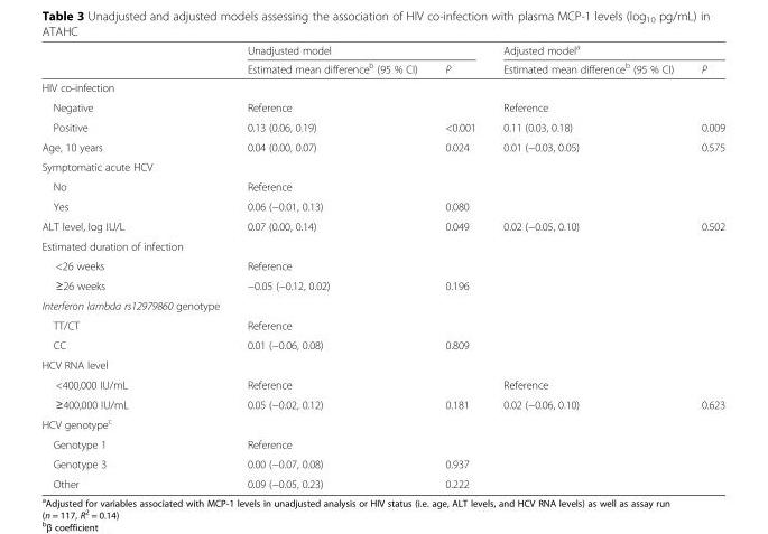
<table><thead><tr><td rowspan="2"></td><td colspan="2">Unadjusted model</td><td colspan="2">Adjusted model<sup>a</sup></td></tr><tr><td>Estimated mean difference<sup>b</sup> (95 % CI)</td><td>P</td><td>Estimated mean difference<sup>b</sup> (95 % CI)</td><td>P</td></tr></thead><tbody><tr><td colspan="5">HIV co-infection</td></tr><tr><td>Negative</td><td>Reference</td><td></td><td>Reference</td><td></td></tr><tr><td>Positive</td><td>0.13 (0.06, 0.19)</td><td>&lt;0.001</td><td>0.11 (0.03, 0.18)</td><td>0.009</td></tr><tr><td>Age, 10 years</td><td>0.04 (0.00, 0.07)</td><td>0.024</td><td>0.01 (−0.03, 0.05)</td><td>0.575</td></tr><tr><td colspan="5">Symptomatic acute HCV</td></tr><tr><td>No</td><td>Reference</td><td></td><td></td><td></td></tr><tr><td>Yes</td><td>0.06 (−0.01, 0.13)</td><td>0.080</td><td></td><td></td></tr><tr><td>ALT level, log IU/L</td><td>0.07 (0.00, 0.14)</td><td>0.049</td><td>0.02 (−0.05, 0.10)</td><td>0.502</td></tr><tr><td colspan="5">Estimated duration of infection</td></tr><tr><td>&lt;26 weeks</td><td>Reference</td><td></td><td></td><td></td></tr><tr><td>≥26 weeks</td><td>−0.05 (−0.12, 0.02)</td><td>0.196</td><td></td><td></td></tr><tr><td colspan="5">Interferon lambda rs12979860 genotype</td></tr><tr><td>TT/CT</td><td>Reference</td><td></td><td></td><td></td></tr><tr><td>CC</td><td>0.01 (−0.06, 0.08)</td><td>0.809</td><td></td><td></td></tr><tr><td colspan="5">HCV RNA level</td></tr><tr><td>&lt;400,000 IU/mL</td><td>Reference</td><td></td><td>Reference</td><td></td></tr><tr><td>≥400,000 IU/mL</td><td>0.05 (−0.02, 0.12)</td><td>0.181</td><td>0.02 (−0.06, 0.10)</td><td>0.623</td></tr><tr><td colspan="5">HCV genotype<sup>c</sup></td></tr><tr><td>Genotype 1</td><td>Reference</td><td></td><td></td><td></td></tr><tr><td>Genotype 3</td><td>0.00 (−0.07, 0.08)</td><td>0.937</td><td></td><td></td></tr><tr><td>Other</td><td>0.09 (−0.05, 0.23)</td><td>0.222</td><td></td><td></td></tr></tbody></table>